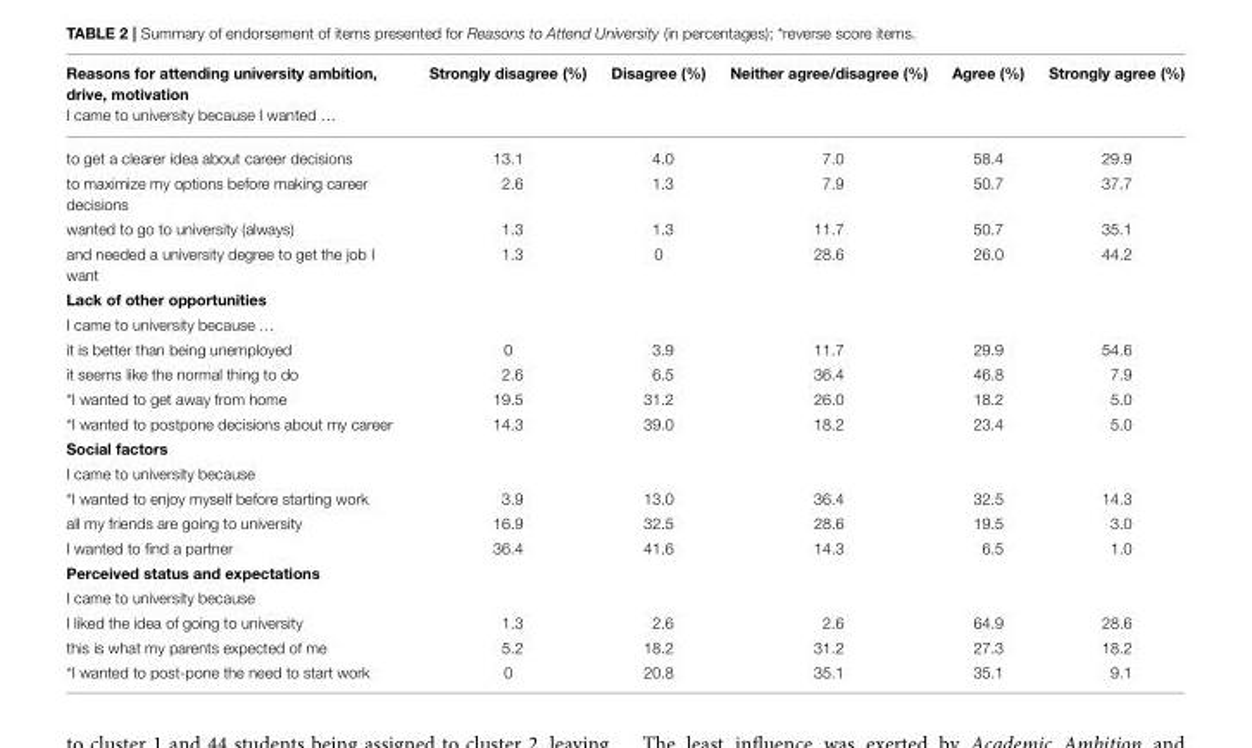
<table><tbody><tr><td>Reasons for attending university ambition, drive, motivation I came to university because I wanted …</td><td>Strongly disagree (%)</td><td>Disagree (%)</td><td>Neither agree/disagree (%)</td><td>Agree (%)</td><td>Strongly agree (%)</td></tr><tr><td>to get a clearer idea about career decisions</td><td>13.1</td><td>4.0</td><td>7.0</td><td>58.4</td><td>29.9</td></tr><tr><td>to maximize my options before making career decisions</td><td>2.6</td><td>1.3</td><td>7.9</td><td>50.7</td><td>37.7</td></tr><tr><td>wanted to go to university (always)</td><td>1.3</td><td>1.3</td><td>11.7</td><td>50.7</td><td>35.1</td></tr><tr><td>and needed a university degree to get the job I want</td><td>1.3</td><td>0</td><td>28.6</td><td>26.0</td><td>44.2</td></tr><tr><td colspan="6">Lack of other opportunities</td></tr><tr><td colspan="6">I came to university because …</td></tr><tr><td>it is better than being unemployed</td><td>0</td><td>3.9</td><td>11.7</td><td>29.9</td><td>54.6</td></tr><tr><td>it seems like the normal thing to do</td><td>2.6</td><td>6.5</td><td>36.4</td><td>46.8</td><td>7.9</td></tr><tr><td>*I wanted to get away from home</td><td>19.5</td><td>31.2</td><td>26.0</td><td>18.2</td><td>5.0</td></tr><tr><td>*I wanted to postpone decisions about my career</td><td>14.3</td><td>39.0</td><td>18.2</td><td>23.4</td><td>5.0</td></tr><tr><td colspan="6">Social factors</td></tr><tr><td colspan="6">I came to university because</td></tr><tr><td>*I wanted to enjoy myself before starting work</td><td>3.9</td><td>13.0</td><td>36.4</td><td>32.5</td><td>14.3</td></tr><tr><td>all my friends are going to university</td><td>16.9</td><td>32.5</td><td>28.6</td><td>19.5</td><td>3.0</td></tr><tr><td>I wanted to find a partner</td><td>36.4</td><td>41.6</td><td>14.3</td><td>6.5</td><td>1.0</td></tr><tr><td colspan="6">Perceived status and expectations</td></tr><tr><td colspan="6">I came to university because</td></tr><tr><td>I liked the idea of going to university</td><td>1.3</td><td>2.6</td><td>2.6</td><td>64.9</td><td>28.6</td></tr><tr><td>this is what my parents expected of me</td><td>5.2</td><td>18.2</td><td>31.2</td><td>27.3</td><td>18.2</td></tr><tr><td>*I wanted to post-pone the need to start work</td><td>0</td><td>20.8</td><td>35.1</td><td>35.1</td><td>9.1</td></tr></tbody></table>